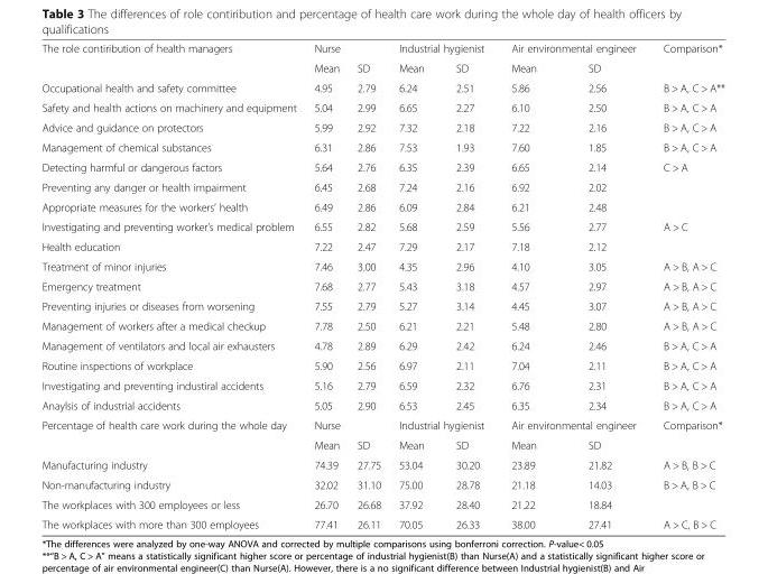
<table><tbody><tr><td rowspan="2">The role contiribution of health managers</td><td colspan="2">Nurse</td><td colspan="2">Industrial hygienist</td><td colspan="2">Air environmental engineer</td><td rowspan="2">Comparison*</td></tr><tr><td>Mean</td><td>SD</td><td>Mean</td><td>SD</td><td>Mean</td><td>SD</td></tr><tr><td>Occupational health and safety committee</td><td>4.95</td><td>2.79</td><td>6.24</td><td>2.51</td><td>5.86</td><td>2.56</td><td>B &gt; A, C &gt; A**</td></tr><tr><td>Safety and health actions on machinery and equipment</td><td>5.04</td><td>2.99</td><td>6.65</td><td>2.27</td><td>6.10</td><td>2.50</td><td>B &gt; A, C &gt; A</td></tr><tr><td>Advice and guidance on protectors</td><td>5.99</td><td>2.92</td><td>7.32</td><td>2.18</td><td>7.22</td><td>2.16</td><td>B &gt; A, C &gt; A</td></tr><tr><td>Management of chemical substances</td><td>6.31</td><td>2.86</td><td>7.53</td><td>1.93</td><td>7.60</td><td>1.85</td><td>B &gt; A, C &gt; A</td></tr><tr><td>Detecting harmful or dangerous factors</td><td>5.64</td><td>2.76</td><td>6.35</td><td>2.39</td><td>6.65</td><td>2.14</td><td>C &gt; A</td></tr><tr><td>Preventing any danger or health impairment</td><td>6.45</td><td>2.68</td><td>7.24</td><td>2.16</td><td>6.92</td><td>2.02</td><td></td></tr><tr><td>Appropriate measures for the workers’ health</td><td>6.49</td><td>2.86</td><td>6.09</td><td>2.84</td><td>6.21</td><td>2.48</td><td></td></tr><tr><td>Investigating and preventing worker’s medical problem</td><td>6.55</td><td>2.82</td><td>5.68</td><td>2.59</td><td>5.56</td><td>2.77</td><td>A &gt; C</td></tr><tr><td>Health education</td><td>7.22</td><td>2.47</td><td>7.29</td><td>2.17</td><td>7.18</td><td>2.12</td><td></td></tr><tr><td>Treatment of minor injuries</td><td>7.46</td><td>3.00</td><td>4.35</td><td>2.96</td><td>4.10</td><td>3.05</td><td>A &gt; B, A &gt; C</td></tr><tr><td>Emergency treatment</td><td>7.68</td><td>2.77</td><td>5.43</td><td>3.18</td><td>4.57</td><td>2.97</td><td>A &gt; B, A &gt; C</td></tr><tr><td>Preventing injuries or diseases from worsening</td><td>7.55</td><td>2.79</td><td>5.27</td><td>3.14</td><td>4.45</td><td>3.07</td><td>A &gt; B, A &gt; C</td></tr><tr><td>Management of workers after a medical checkup</td><td>7.78</td><td>2.50</td><td>6.21</td><td>2.21</td><td>5.48</td><td>2.80</td><td>A &gt; B, A &gt; C</td></tr><tr><td>Management of ventilators and local air exhausters</td><td>4.78</td><td>2.89</td><td>6.29</td><td>2.42</td><td>6.24</td><td>2.46</td><td>B &gt; A, C &gt; A</td></tr><tr><td>Routine inspections of workplace</td><td>5.90</td><td>2.56</td><td>6.97</td><td>2.11</td><td>7.04</td><td>2.11</td><td>B &gt; A, C &gt; A</td></tr><tr><td>Investigating and preventing industiral accidents</td><td>5.16</td><td>2.79</td><td>6.59</td><td>2.32</td><td>6.76</td><td>2.31</td><td>B &gt; A, C &gt; A</td></tr><tr><td>Anaylsis of industrial accidents</td><td>5.05</td><td>2.90</td><td>6.53</td><td>2.45</td><td>6.35</td><td>2.34</td><td>B &gt; A, C &gt; A</td></tr><tr><td rowspan="2">Percentage of health care work during the whole day</td><td colspan="2">Nurse</td><td colspan="2">Industrial hygienist</td><td colspan="2">Air environmental engineer</td><td>Comparison*</td></tr><tr><td>Mean</td><td>SD</td><td>Mean</td><td>SD</td><td>Mean</td><td>SD</td><td></td></tr><tr><td>Manufacturing industry</td><td>74.39</td><td>27.75</td><td>53.04</td><td>30.20</td><td>23.89</td><td>21.82</td><td>A &gt; B, B &gt; C</td></tr><tr><td>Non-manufacturing industry</td><td>32.02</td><td>31.10</td><td>75.00</td><td>28.78</td><td>21.18</td><td>14.03</td><td>B &gt; A, B &gt; C</td></tr><tr><td>The workplaces with 300 employees or less</td><td>26.70</td><td>26.68</td><td>37.92</td><td>28.40</td><td>21.22</td><td>18.84</td><td></td></tr><tr><td>The workplaces with more than 300 employees</td><td>77.41</td><td>26.11</td><td>70.05</td><td>26.33</td><td>38.00</td><td>27.41</td><td>A &gt; C, B &gt; C</td></tr></tbody></table>